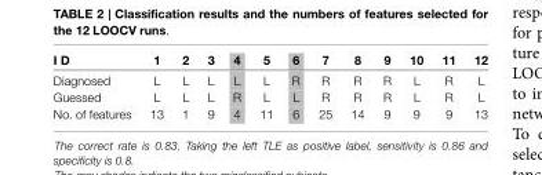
<table><thead><tr><td>I D</td><td>1</td><td>2</td><td>3</td><td>4</td><td>5</td><td>6</td><td>7</td><td>8</td><td>9</td><td>10</td><td>11</td><td>12</td></tr></thead><tbody><tr><td>Diagnosed</td><td>L</td><td>L</td><td>L</td><td>L</td><td>L</td><td>R</td><td>R</td><td>R</td><td>R</td><td>L</td><td>R</td><td>L</td></tr><tr><td>Guessed</td><td>L</td><td>L</td><td>L</td><td>R</td><td>L</td><td>L</td><td>R</td><td>R</td><td>R</td><td>L</td><td>R</td><td>L</td></tr><tr><td>No. of features</td><td>13</td><td>1</td><td>9</td><td>4</td><td>11</td><td>6</td><td>25</td><td>14</td><td>9</td><td>9</td><td>9</td><td>13</td></tr></tbody></table>